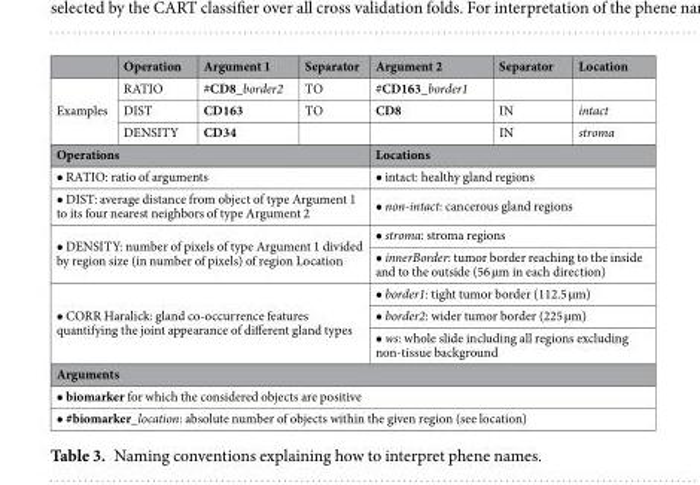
<table><thead><tr><td></td><td>Operation</td><td>Argument 1</td><td>Separator</td><td>Argument 2</td><td>Separator</td><td>Location</td></tr></thead><tbody><tr><td rowspan="3">Examples</td><td>RATIO</td><td>#CD8_border2</td><td>TO</td><td>#CD163_border1</td><td></td><td></td></tr><tr><td>DIST</td><td>CD163</td><td>TO</td><td>CD8</td><td>IN</td><td>intact</td></tr><tr><td>DENSITY</td><td>CD34</td><td></td><td></td><td>IN</td><td>stroma</td></tr><tr><td colspan="4">Operations</td><td colspan="3">Locations</td></tr><tr><td colspan="4">• RATIO: ratio of arguments</td><td colspan="3">• intact: healthy gland regions</td></tr><tr><td colspan="4">• DIST: average distance from object of type Argument 1 to its four nearest neighbors of type Argument 2</td><td colspan="3">• non-intact: cancerous gland regions</td></tr><tr><td rowspan="2" colspan="4">• DENSITY: number of pixels of type Argument 1 divided by region size (in number of pixels) of region Location</td><td colspan="3">• stroma: stroma regions</td></tr><tr><td colspan="3">• innerBorder: tumor border reaching to the inside and to the outside (56 µm in each direction)</td></tr><tr><td rowspan="3" colspan="4">• CORR Haralick: gland co-occurrence features quantifying the joint appearance of different gland types</td><td colspan="3">• border1: tight tumor border (112.5 µm)</td></tr><tr><td colspan="3">• border2: wider tumor border (225 µm)</td></tr><tr><td colspan="3">• ws: whole slide including all regions excluding non-tissue background</td></tr><tr><td colspan="7">Arguments</td></tr><tr><td colspan="7">• biomarker for which the considered objects are positive</td></tr><tr><td colspan="7">• #biomarker_location: absolute number of objects within the given region (see location)</td></tr></tbody></table>